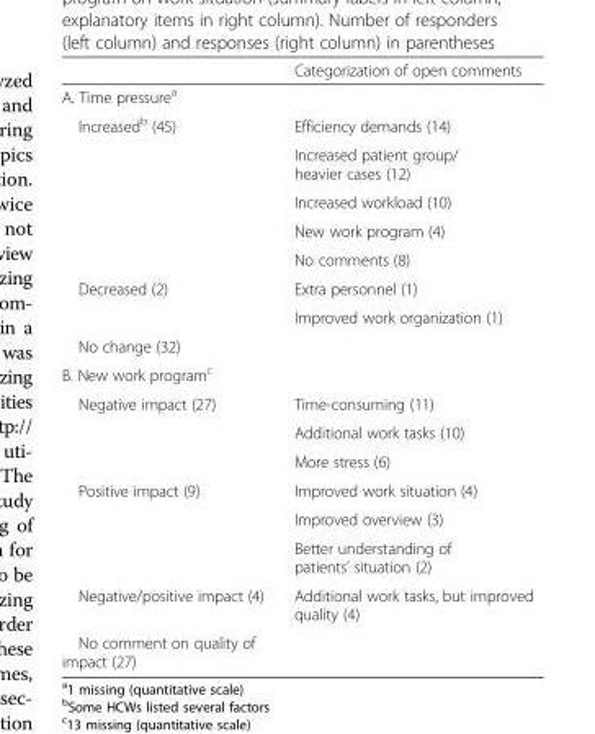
<table><thead><tr><td></td><td>Categorization of open comments</td></tr></thead><tbody><tr><td colspan="2">A. Time pressure<sup>a</sup></td></tr><tr><td rowspan="5">Increased<sup>b</sup> (45)</td><td>Efficiency demands (14)</td></tr><tr><td>Increased patient group/ heavier cases (12)</td></tr><tr><td>Increased workload (10)</td></tr><tr><td>New work program (4)</td></tr><tr><td>No comments (8)</td></tr><tr><td rowspan="2">Decreased (2)</td><td>Extra personnel (1)</td></tr><tr><td>Improved work organization (1)</td></tr><tr><td colspan="2">No change (32)</td></tr><tr><td colspan="2">B. New work program<sup>c</sup></td></tr><tr><td rowspan="3">Negative impact (27)</td><td>Time-consuming (11)</td></tr><tr><td>Additional work tasks (10)</td></tr><tr><td>More stress (6)</td></tr><tr><td rowspan="3">Positive impact (9)</td><td>Improved work situation (4)</td></tr><tr><td>Improved overview (3)</td></tr><tr><td>Better understanding of patients’ situation (2)</td></tr><tr><td>Negative/positive impact (4)</td><td>Additional work tasks, but improved quality (4)</td></tr><tr><td>No comment on quality of impact (27)</td><td></td></tr></tbody></table>